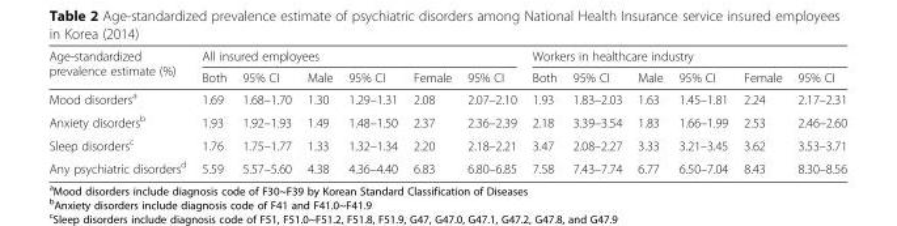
<table><thead><tr><td rowspan="2">Age-standardized prevalence estimate (%)</td><td colspan="6">All insured employees</td><td colspan="6">Workers in healthcare industry</td></tr><tr><td>Both</td><td>95% CI</td><td>Male</td><td>95% CI</td><td>Female</td><td>95% CI</td><td>Both</td><td>95% CI</td><td>Male</td><td>95% CI</td><td>Female</td><td>95% CI</td></tr></thead><tbody><tr><td>Mood disorders<sup>a</sup></td><td>1.69</td><td>1.68–1.70</td><td>1.30</td><td>1.29–1.31</td><td>2.08</td><td>2.07–2.10</td><td>1.93</td><td>1.83–2.03</td><td>1.63</td><td>1.45–1.81</td><td>2.24</td><td>2.17–2.31</td></tr><tr><td>Anxiety disorders<sup>b</sup></td><td>1.93</td><td>1.92–1.93</td><td>1.49</td><td>1.48–1.50</td><td>2.37</td><td>2.36–2.39</td><td>2.18</td><td>3.39–3.54</td><td>1.83</td><td>1.66–1.99</td><td>2.53</td><td>2.46–2.60</td></tr><tr><td>Sleep disorders<sup>c</sup></td><td>1.76</td><td>1.75–1.77</td><td>1.33</td><td>1.32–1.34</td><td>2.20</td><td>2.18–2.21</td><td>3.47</td><td>2.08–2.27</td><td>3.33</td><td>3.21–3.45</td><td>3.62</td><td>3.53–3.71</td></tr><tr><td>Any psychiatric disorders<sup>d</sup></td><td>5.59</td><td>5.57–5.60</td><td>4.38</td><td>4.36–4.40</td><td>6.83</td><td>6.80–6.85</td><td>7.58</td><td>7.43–7.74</td><td>6.77</td><td>6.50–7.04</td><td>8.43</td><td>8.30–8.56</td></tr></tbody></table>